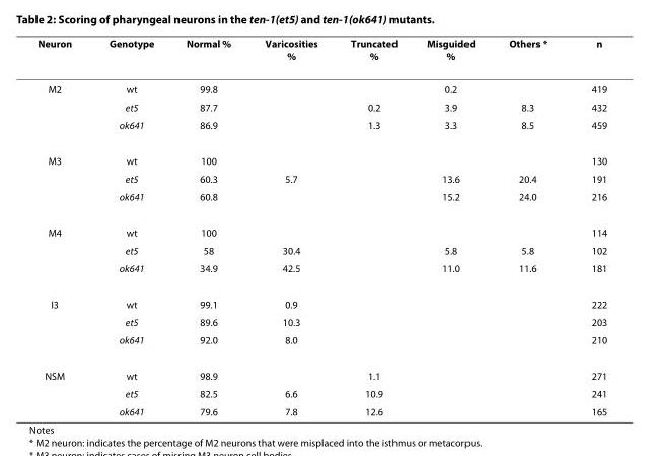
<table><thead><tr><td>Neuron</td><td>Genotype</td><td>Normal %</td><td>Varicosities %</td><td>Truncated %</td><td>Misguided %</td><td>Others *</td><td>n</td></tr></thead><tbody><tr><td rowspan="3">M2</td><td>wt</td><td>99.8</td><td></td><td></td><td>0.2</td><td></td><td>419</td></tr><tr><td>et5</td><td>87.7</td><td></td><td>0.2</td><td>3.9</td><td>8.3</td><td>432</td></tr><tr><td>ok641</td><td>86.9</td><td></td><td>1.3</td><td>3.3</td><td>8.5</td><td>459</td></tr><tr><td rowspan="3">M3</td><td>wt</td><td>100</td><td></td><td></td><td></td><td></td><td>130</td></tr><tr><td>et5</td><td>60.3</td><td>5.7</td><td></td><td>13.6</td><td>20.4</td><td>191</td></tr><tr><td>ok641</td><td>60.8</td><td></td><td></td><td>15.2</td><td>24.0</td><td>216</td></tr><tr><td rowspan="3">M4</td><td>wt</td><td>100</td><td></td><td></td><td></td><td></td><td>114</td></tr><tr><td>et5</td><td>58</td><td>30.4</td><td></td><td>5.8</td><td>5.8</td><td>102</td></tr><tr><td>ok641</td><td>34.9</td><td>42.5</td><td></td><td>11.0</td><td>11.6</td><td>181</td></tr><tr><td rowspan="3">I3</td><td>wt</td><td>99.1</td><td>0.9</td><td></td><td></td><td></td><td>222</td></tr><tr><td>et5</td><td>89.6</td><td>10.3</td><td></td><td></td><td></td><td>203</td></tr><tr><td>ok641</td><td>92.0</td><td>8.0</td><td></td><td></td><td></td><td>210</td></tr><tr><td rowspan="3">NSM</td><td>wt</td><td>98.9</td><td></td><td>1.1</td><td></td><td></td><td>271</td></tr><tr><td>et5</td><td>82.5</td><td>6.6</td><td>10.9</td><td></td><td></td><td>241</td></tr><tr><td>ok641</td><td>79.6</td><td>7.8</td><td>12.6</td><td></td><td></td><td>165</td></tr></tbody></table>